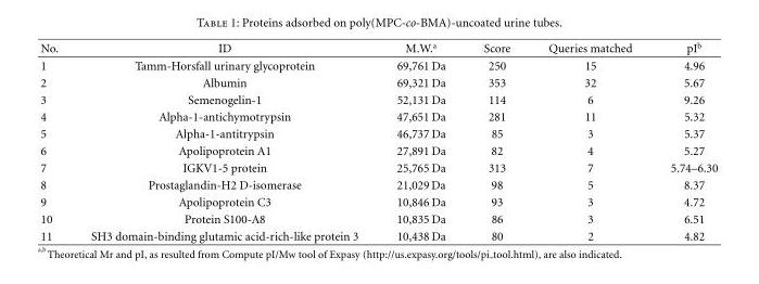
<table><thead><tr><td>No.</td><td>ID</td><td>M.W.<sup>a</sup></td><td>Score</td><td>Queries matched</td><td>pI<sup>b</sup></td></tr></thead><tbody><tr><td>1</td><td>Tamm-Horsfall urinary glycoprotein</td><td>69,761 Da</td><td>250</td><td>15</td><td>4.96</td></tr><tr><td>2</td><td>Albumin</td><td>69,321 Da</td><td>353</td><td>32</td><td>5.67</td></tr><tr><td>3</td><td>Semenogelin-1</td><td>52,131 Da</td><td>114</td><td>6</td><td>9.26</td></tr><tr><td>4</td><td>Alpha-1-antichymotrypsin</td><td>47,651 Da</td><td>281</td><td>11</td><td>5.32</td></tr><tr><td>5</td><td>Alpha-1-antitrypsin</td><td>46,737 Da</td><td>85</td><td>3</td><td>5.37</td></tr><tr><td>6</td><td>Apolipoprotein A1</td><td>27,891 Da</td><td>82</td><td>4</td><td>5.27</td></tr><tr><td>7</td><td>IGKV1-5 protein</td><td>25,765 Da</td><td>313</td><td>7</td><td>5.74–6.30</td></tr><tr><td>8</td><td>Prostaglandin-H2 D-isomerase</td><td>21,029 Da</td><td>98</td><td>5</td><td>8.37</td></tr><tr><td>9</td><td>Apolipoprotein C3</td><td>10,846 Da</td><td>93</td><td>3</td><td>4.72</td></tr><tr><td>10</td><td>Protein S100-A8</td><td>10,835 Da</td><td>86</td><td>3</td><td>6.51</td></tr><tr><td>11</td><td>SH3 domain-binding glutamic acid-rich-like protein 3</td><td>10,438 Da</td><td>80</td><td>2</td><td>4.82</td></tr></tbody></table>